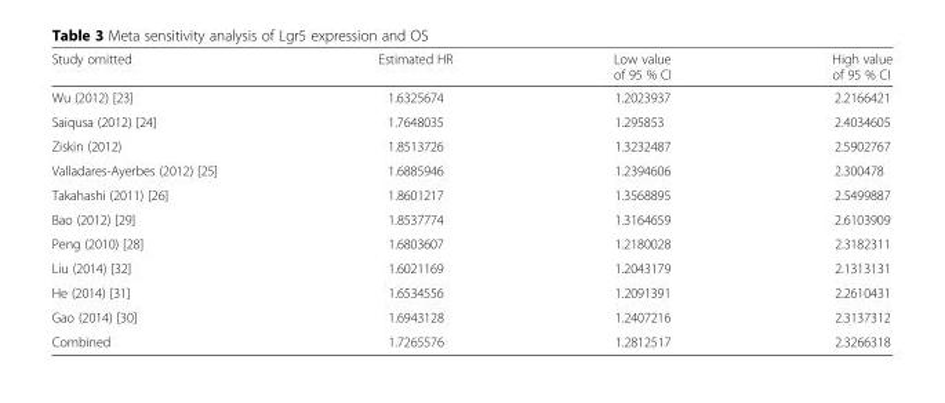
<table><thead><tr><td>Study omitted</td><td>Estimated HR</td><td>Low value of 95 % CI</td><td>High value of 95 % CI</td></tr></thead><tbody><tr><td>Wu (2012) [23]</td><td>1.6325674</td><td>1.2023937</td><td>2.2166421</td></tr><tr><td>Saiqusa (2012) [24]</td><td>1.7648035</td><td>1.295853</td><td>2.4034605</td></tr><tr><td>Ziskin (2012)</td><td>1.8513726</td><td>1.3232487</td><td>2.5902767</td></tr><tr><td>Valladares-Ayerbes (2012) [25]</td><td>1.6885946</td><td>1.2394606</td><td>2.300478</td></tr><tr><td>Takahashi (2011) [26]</td><td>1.8601217</td><td>1.3568895</td><td>2.5499887</td></tr><tr><td>Bao (2012) [29]</td><td>1.8537774</td><td>1.3164659</td><td>2.6103909</td></tr><tr><td>Peng (2010) [28]</td><td>1.6803607</td><td>1.2180028</td><td>2.3182311</td></tr><tr><td>Liu (2014) [32]</td><td>1.6021169</td><td>1.2043179</td><td>2.1313131</td></tr><tr><td>He (2014) [31]</td><td>1.6534556</td><td>1.2091391</td><td>2.2610431</td></tr><tr><td>Gao (2014) [30]</td><td>1.6943128</td><td>1.2407216</td><td>2.3137312</td></tr><tr><td>Combined</td><td>1.7265576</td><td>1.2812517</td><td>2.3266318</td></tr></tbody></table>